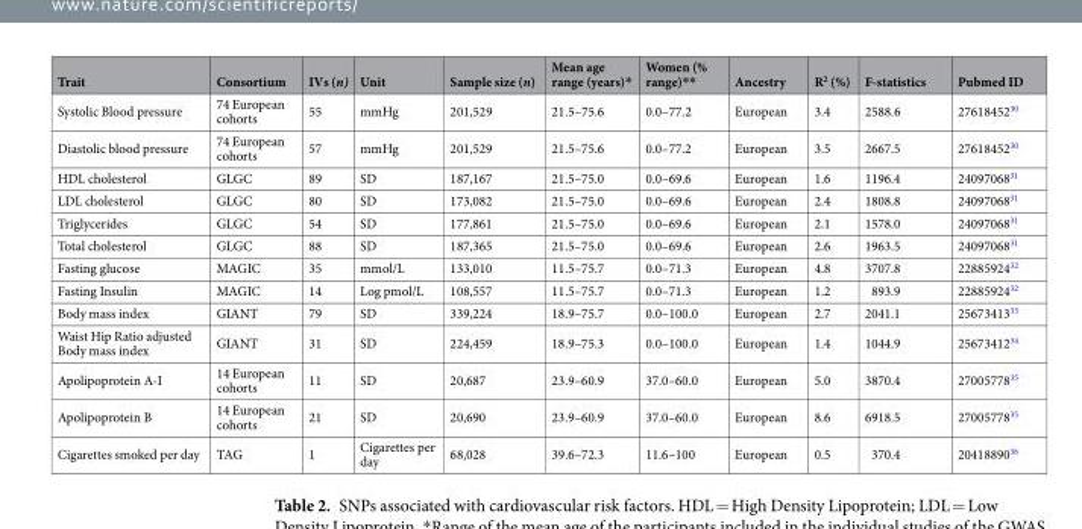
<table><thead><tr><td>Trait</td><td>Consortium</td><td>IVs (n)</td><td>Unit</td><td>Sample size (n)</td><td>Mean age range (years)*</td><td>Women (% range)**</td><td>Ancestry</td><td>R<sup>2</sup> (%)</td><td>F-statistics</td><td>Pubmed ID</td></tr></thead><tbody><tr><td>Systolic Blood pressure</td><td>74 European cohorts</td><td>55</td><td>mmHg</td><td>201,529</td><td>21.5–75.6</td><td>0.0–77.2</td><td>European</td><td>3.4</td><td>2588.6</td><td>27618452<sup>30</sup></td></tr><tr><td>Diastolic blood pressure</td><td>74 European cohorts</td><td>57</td><td>mmHg</td><td>201,529</td><td>21.5–75.6</td><td>0.0–77.2</td><td>European</td><td>3.5</td><td>2667.5</td><td>27618452<sup>30</sup></td></tr><tr><td>HDL cholesterol</td><td>GLGC</td><td>89</td><td>SD</td><td>187,167</td><td>21.5–75.0</td><td>0.0–69.6</td><td>European</td><td>1.6</td><td>1196.4</td><td>24097068<sup>31</sup></td></tr><tr><td>LDL cholesterol</td><td>GLGC</td><td>80</td><td>SD</td><td>173,082</td><td>21.5–75.0</td><td>0.0–69.6</td><td>European</td><td>2.4</td><td>1808.8</td><td>24097068<sup>31</sup></td></tr><tr><td>Triglycerides</td><td>GLGC</td><td>54</td><td>SD</td><td>177,861</td><td>21.5–75.0</td><td>0.0–69.6</td><td>European</td><td>2.1</td><td>1578.0</td><td>24097068<sup>31</sup></td></tr><tr><td>Total cholesterol</td><td>GLGC</td><td>88</td><td>SD</td><td>187,365</td><td>21.5–75.0</td><td>0.0–69.6</td><td>European</td><td>2.6</td><td>1963.5</td><td>24097068<sup>31</sup></td></tr><tr><td>Fasting glucose</td><td>MAGIC</td><td>35</td><td>mmol/L</td><td>133,010</td><td>11.5–75.7</td><td>0.0–71.3</td><td>European</td><td>4.8</td><td>3707.8</td><td>22885924<sup>32</sup></td></tr><tr><td>Fasting Insulin</td><td>MAGIC</td><td>14</td><td>Log pmol/L</td><td>108,557</td><td>11.5–75.7</td><td>0.0–71.3</td><td>European</td><td>1.2</td><td>893.9</td><td>22885924<sup>32</sup></td></tr><tr><td>Body mass index</td><td>GIANT</td><td>79</td><td>SD</td><td>339,224</td><td>18.9–75.7</td><td>0.0–100.0</td><td>European</td><td>2.7</td><td>2041.1</td><td>25673413<sup>33</sup></td></tr><tr><td>Waist Hip Ratio adjusted Body mass index</td><td>GIANT</td><td>31</td><td>SD</td><td>224,459</td><td>18.9–75.3</td><td>0.0–100.0</td><td>European</td><td>1.4</td><td>1044.9</td><td>25673412<sup>34</sup></td></tr><tr><td>Apolipoprotein A-I</td><td>14 European cohorts</td><td>11</td><td>SD</td><td>20,687</td><td>23.9–60.9</td><td>37.0–60.0</td><td>European</td><td>5.0</td><td>3870.4</td><td>27005778<sup>35</sup></td></tr><tr><td>Apolipoprotein B</td><td>14 European cohorts</td><td>21</td><td>SD</td><td>20,690</td><td>23.9–60.9</td><td>37.0–60.0</td><td>European</td><td>8.6</td><td>6918.5</td><td>27005778<sup>35</sup></td></tr><tr><td>Cigarettes smoked per day</td><td>TAG</td><td>1</td><td>Cigarettes per day</td><td>68,028</td><td>39.6–72.3</td><td>11.6–100</td><td>European</td><td>0.5</td><td>370.4</td><td>20418890<sup>36</sup></td></tr></tbody></table>